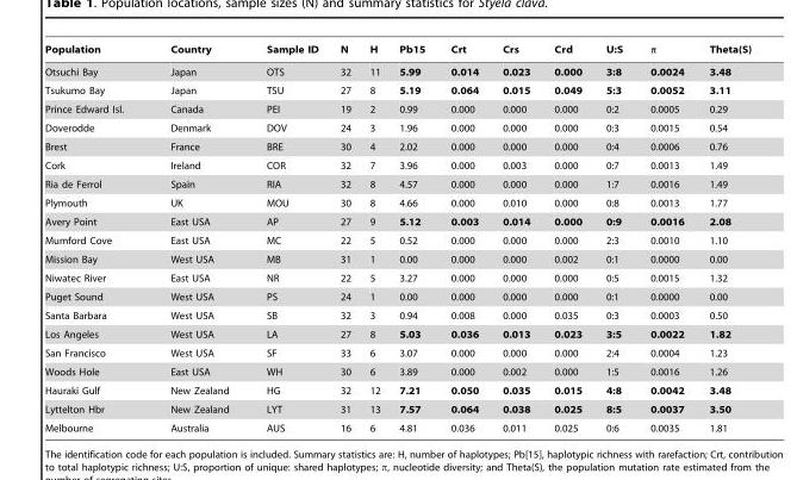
<table><thead><tr><td>Population</td><td>Country</td><td>Sample ID</td><td>N</td><td>H</td><td>Pb15</td><td>Crt</td><td>Crs</td><td>Crd</td><td>U:S</td><td>π</td><td>Theta(S)</td></tr></thead><tbody><tr><td>Otsuchi Bay</td><td>Japan</td><td>OTS</td><td>32</td><td>11</td><td>5.99</td><td>0.014</td><td>0.023</td><td>0.000</td><td>3:8</td><td>0.0024</td><td>3.48</td></tr><tr><td>Tsukumo Bay</td><td>Japan</td><td>TSU</td><td>27</td><td>8</td><td>5.19</td><td>0.064</td><td>0.015</td><td>0.049</td><td>5:3</td><td>0.0052</td><td>3.11</td></tr><tr><td>Prince Edward Isl.</td><td>Canada</td><td>PEI</td><td>19</td><td>2</td><td>0.99</td><td>0.000</td><td>0.000</td><td>0.000</td><td>0:2</td><td>0.0005</td><td>0.29</td></tr><tr><td>Doverodde</td><td>Denmark</td><td>DOV</td><td>24</td><td>3</td><td>1.96</td><td>0.000</td><td>0.000</td><td>0.000</td><td>0:3</td><td>0.0015</td><td>0.54</td></tr><tr><td>Brest</td><td>France</td><td>BRE</td><td>30</td><td>4</td><td>2.02</td><td>0.000</td><td>0.000</td><td>0.000</td><td>0:4</td><td>0.0006</td><td>0.76</td></tr><tr><td>Cork</td><td>Ireland</td><td>COR</td><td>32</td><td>7</td><td>3.96</td><td>0.000</td><td>0.003</td><td>0.000</td><td>0:7</td><td>0.0013</td><td>1.49</td></tr><tr><td>Ria de Ferrol</td><td>Spain</td><td>RIA</td><td>32</td><td>8</td><td>4.57</td><td>0.000</td><td>0.000</td><td>0.000</td><td>1:7</td><td>0.0016</td><td>1.49</td></tr><tr><td>Plymouth</td><td>UK</td><td>MOU</td><td>30</td><td>8</td><td>4.66</td><td>0.000</td><td>0.010</td><td>0.000</td><td>0:8</td><td>0.0013</td><td>1.77</td></tr><tr><td>Avery Point</td><td>East USA</td><td>AP</td><td>27</td><td>9</td><td>5.12</td><td>0.003</td><td>0.014</td><td>0.000</td><td>0:9</td><td>0.0016</td><td>2.08</td></tr><tr><td>Mumford Cove</td><td>East USA</td><td>MC</td><td>22</td><td>5</td><td>0.52</td><td>0.000</td><td>0.000</td><td>0.000</td><td>2:3</td><td>0.0010</td><td>1.10</td></tr><tr><td>Mission Bay</td><td>West USA</td><td>MB</td><td>31</td><td>1</td><td>0.00</td><td>0.000</td><td>0.000</td><td>0.002</td><td>0:1</td><td>0.0000</td><td>0.00</td></tr><tr><td>Niwatec River</td><td>East USA</td><td>NR</td><td>22</td><td>5</td><td>3.27</td><td>0.000</td><td>0.000</td><td>0.000</td><td>0:5</td><td>0.0015</td><td>1.32</td></tr><tr><td>Puget Sound</td><td>West USA</td><td>PS</td><td>24</td><td>1</td><td>0.00</td><td>0.000</td><td>0.000</td><td>0.000</td><td>0:1</td><td>0.0000</td><td>0.00</td></tr><tr><td>Santa Barbara</td><td>West USA</td><td>SB</td><td>32</td><td>3</td><td>0.94</td><td>0.008</td><td>0.000</td><td>0.035</td><td>0:3</td><td>0.0003</td><td>0.50</td></tr><tr><td>Los Angeles</td><td>West USA</td><td>LA</td><td>27</td><td>8</td><td>5.03</td><td>0.036</td><td>0.013</td><td>0.023</td><td>3:5</td><td>0.0022</td><td>1.82</td></tr><tr><td>San Francisco</td><td>West USA</td><td>SF</td><td>33</td><td>6</td><td>3.07</td><td>0.000</td><td>0.000</td><td>0.000</td><td>2:4</td><td>0.0004</td><td>1.23</td></tr><tr><td>Woods Hole</td><td>East USA</td><td>WH</td><td>30</td><td>6</td><td>3.89</td><td>0.000</td><td>0.002</td><td>0.000</td><td>1:5</td><td>0.0016</td><td>1.26</td></tr><tr><td>Hauraki Gulf</td><td>New Zealand</td><td>HG</td><td>32</td><td>12</td><td>7.21</td><td>0.050</td><td>0.035</td><td>0.015</td><td>4:8</td><td>0.0042</td><td>3.48</td></tr><tr><td>Lyttelton Hbr</td><td>New Zealand</td><td>LYT</td><td>31</td><td>13</td><td>7.57</td><td>0.064</td><td>0.038</td><td>0.025</td><td>8:5</td><td>0.0037</td><td>3.50</td></tr><tr><td>Melbourne</td><td>Australia</td><td>AUS</td><td>16</td><td>6</td><td>4.81</td><td>0.036</td><td>0.011</td><td>0.025</td><td>0:6</td><td>0.0035</td><td>1.81</td></tr></tbody></table>